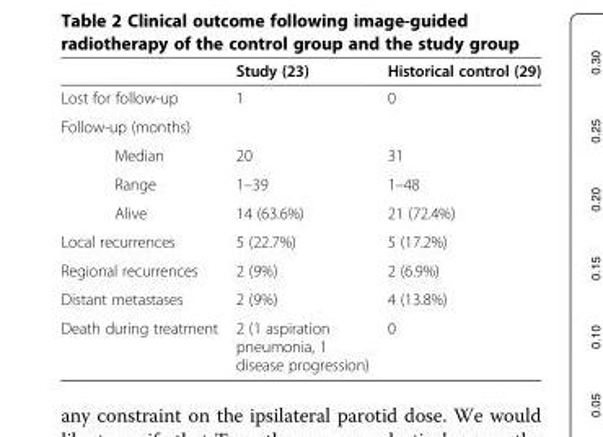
<table><thead><tr><td></td><td>Study (23)</td><td>Historical control (29)</td></tr></thead><tbody><tr><td>Lost for follow-up</td><td>1</td><td>0</td></tr><tr><td colspan="3">Follow-up (months)</td></tr><tr><td>Median</td><td>20</td><td>31</td></tr><tr><td>Range</td><td>1–39</td><td>1–48</td></tr><tr><td>Alive</td><td>14 (63.6%)</td><td>21 (72.4%)</td></tr><tr><td>Local recurrences</td><td>5 (22.7%)</td><td>5 (17.2%)</td></tr><tr><td>Regional recurrences</td><td>2 (9%)</td><td>2 (6.9%)</td></tr><tr><td>Distant metastases</td><td>2 (9%)</td><td>4 (13.8%)</td></tr><tr><td>Death during treatment</td><td>2 (1 aspiration pneumonia, 1 disease progression)</td><td>0</td></tr></tbody></table>